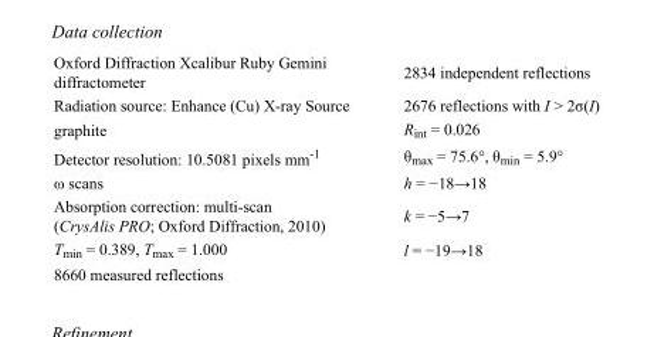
<table><tbody><tr><td>Oxford Diffraction Xcalibur Ruby Gemini diffractometer</td><td>2834 independent reflections</td></tr><tr><td>Radiation source: Enhance (Cu) X-ray Source</td><td>2676 reflections with I &gt; 2σ(I)</td></tr><tr><td>graphite</td><td>R<sub>int</sub> = 0.026</td></tr><tr><td>Detector resolution: 10.5081 pixels mm<sup>-1</sup></td><td>θ<sub>max</sub> = 75.6°, θ<sub>min</sub> = 5.9°</td></tr><tr><td>ω scans</td><td>h = −18→18</td></tr><tr><td>Absorption correction: multi-scan (CrysAlis PRO; Oxford Diffraction, 2010)</td><td>k = −5→7</td></tr><tr><td>T<sub>min</sub> = 0.389, T<sub>max</sub> = 1.000</td><td>l = −19→18</td></tr><tr><td>8660 measured reflections</td><td></td></tr></tbody></table>